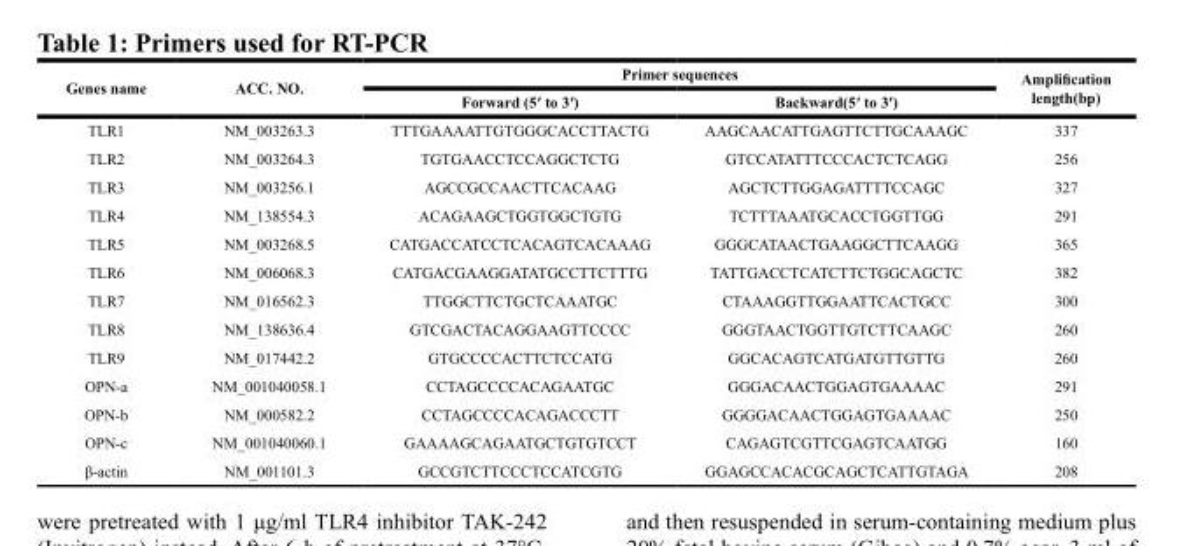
<table><thead><tr><td rowspan="2">Genes name</td><td rowspan="2">ACC. NO.</td><td colspan="2">Primer sequences</td><td rowspan="2">Amplification length(bp)</td></tr><tr><td>Forward (5′ to 3′)</td><td>Backward(5′ to 3′)</td></tr></thead><tbody><tr><td>TLR1</td><td>NM_003263.3</td><td>TTTGAAAATTGTGGGCACCTTACTG</td><td>AAGCAACATTGAGTTCTTGCAAAGC</td><td>337</td></tr><tr><td>TLR2</td><td>NM_003264.3</td><td>TGTGAACCTCCAGGCTCTG</td><td>GTCCATATTTCCCACTCTCAGG</td><td>256</td></tr><tr><td>TLR3</td><td>NM_003256.1</td><td>AGCCGCCAACTTCACAAG</td><td>AGCTCTTGGAGATTTTCCAGC</td><td>327</td></tr><tr><td>TLR4</td><td>NM_138554.3</td><td>ACAGAAGCTGGTGGCTGTG</td><td>TCTTTAAATGCACCTGGTTGG</td><td>291</td></tr><tr><td>TLR5</td><td>NM_003268.5</td><td>CATGACCATCCTCACAGTCACAAAG</td><td>GGGCATAACTGAAGGCTTCAAGG</td><td>365</td></tr><tr><td>TLR6</td><td>NM_006068.3</td><td>CATGACGAAGGATATGCCTTCTTTG</td><td>TATTGACCTCATCTTCTGGCAGCTC</td><td>382</td></tr><tr><td>TLR7</td><td>NM_016562.3</td><td>TTGGCTTCTGCTCAAATGC</td><td>CTAAAGGTTGGAATTCACTGCC</td><td>300</td></tr><tr><td>TLR8</td><td>NM_138636.4</td><td>GTCGACTACAGGAAGTTCCCC</td><td>GGGTAACTGGTTGTCTTCAAGC</td><td>260</td></tr><tr><td>TLR9</td><td>NM_017442.2</td><td>GTGCCCCACTTCTCCATG</td><td>GGCACAGTCATGATGTTGTTG</td><td>260</td></tr><tr><td>OPN-a</td><td>NM_001040058.1</td><td>CCTAGCCCCACAGAATGC</td><td>GGGACAACTGGAGTGAAAAC</td><td>291</td></tr><tr><td>OPN-b</td><td>NM_000582.2</td><td>CCTAGCCCCACAGACCCTT</td><td>GGGGACAACTGGAGTGAAAAC</td><td>250</td></tr><tr><td>OPN-c</td><td>NM_001040060.1</td><td>GAAAAGCAGAATGCTGTGTCCT</td><td>CAGAGTCGTTCGAGTCAATGG</td><td>160</td></tr><tr><td>β-actin</td><td>NM_001101.3</td><td>GCCGTCTTCCCTCCATCGTG</td><td>GGAGCCACACGCAGCTCATTGTAGA</td><td>208</td></tr></tbody></table>